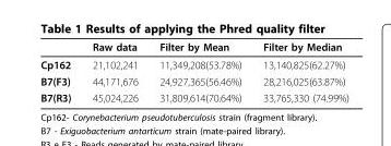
<table><thead><tr><td></td><td>Raw data</td><td>Filter by Mean</td><td>Filter by Median</td></tr></thead><tbody><tr><td>Cp162</td><td>21,102,241</td><td>11,349,208(53.78%)</td><td>13,140,825(62.27%)</td></tr><tr><td>B7(F3)</td><td>44,171,676</td><td>24,927,365(56.46%)</td><td>28,216,025(63.87%)</td></tr><tr><td>B7(R3)</td><td>45,024,226</td><td>31,809,614(70.64%)</td><td>33,765,330 (74.99%)</td></tr></tbody></table>